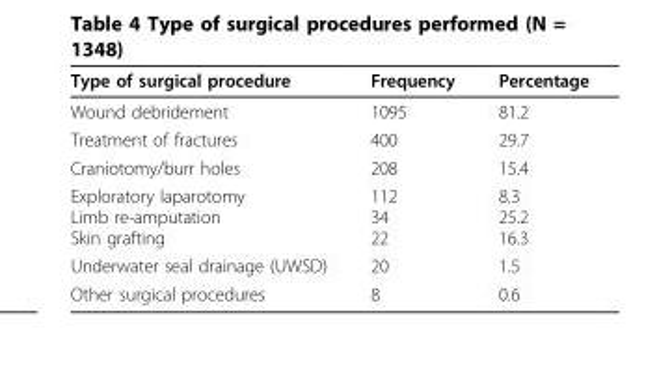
<table><thead><tr><td>Type of surgical procedure</td><td>Frequency</td><td>Percentage</td></tr></thead><tbody><tr><td>Wound debridement</td><td>1095</td><td>81.2</td></tr><tr><td>Treatment of fractures</td><td>400</td><td>29.7</td></tr><tr><td>Craniotomy/burr holes</td><td>208</td><td>15.4</td></tr><tr><td>Exploratory laparotomy Limb re-amputation Skin grafting</td><td>112 34 22</td><td>8.3 25.2 16.3</td></tr><tr><td>Underwater seal drainage (UWSD)</td><td>20</td><td>1.5</td></tr><tr><td>Other surgical procedures</td><td>8</td><td>0.6</td></tr></tbody></table>